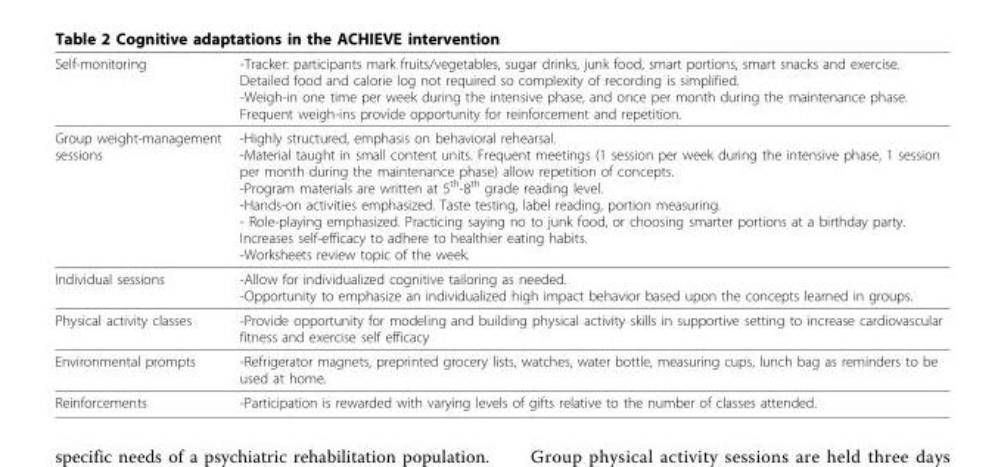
<table><thead><tr><td>Self-monitoring</td><td>-Tracker: participants mark fruits/vegetables, sugar drinks, junk food, smart portions, smart snacks and exercise. Detailed food and calorie log not required so complexity of recording is simplified. -Weigh-in one time per week during the intensive phase, and once per month during the maintenance phase. Frequent weigh-ins provide opportunity for reinforcement and repetition.</td></tr></thead><tbody><tr><td>Group weight-management sessions</td><td>-Highly structured, emphasis on behavioral rehearsal. -Material taught in small content units. Frequent meetings (1 session per week during the intensive phase, 1 session per month during the maintenance phase) allow repetition of concepts. -Program materials are written at 5<sup>th</sup>-8<sup>th</sup> grade reading level. -Hands-on activities emphasized. Taste testing, label reading, portion measuring. - Role-playing emphasized. Practicing saying no to junk food, or choosing smarter portions at a birthday party. Increases self-efficacy to adhere to healthier eating habits. -Worksheets review topic of the week.</td></tr><tr><td>Individual sessions</td><td>-Allow for individualized cognitive tailoring as needed. -Opportunity to emphasize an individualized high impact behavior based upon the concepts learned in groups.</td></tr><tr><td>Physical activity classes</td><td>-Provide opportunity for modeling and building physical activity skills in supportive setting to increase cardiovascular fitness and exercise self efficacy</td></tr><tr><td>Environmental prompts</td><td>-Refrigerator magnets, preprinted grocery lists, watches, water bottle, measuring cups, lunch bag as reminders to be used at home.</td></tr><tr><td>Reinforcements</td><td>-Participation is rewarded with varying levels of gifts relative to the number of classes attended.</td></tr></tbody></table>